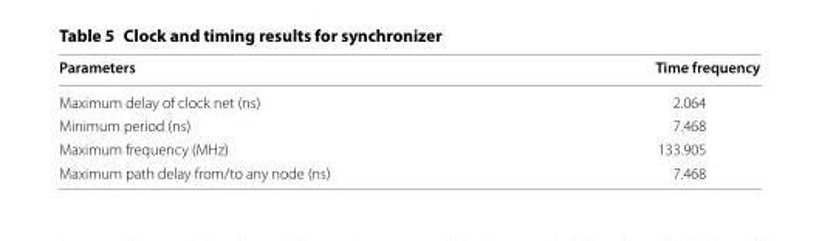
<table><thead><tr><td>Parameters</td><td>Time frequency</td></tr></thead><tbody><tr><td>Maximum delay of clock net (ns)</td><td>2.064</td></tr><tr><td>Minimum period (ns)</td><td>7.468</td></tr><tr><td>Maximum frequency (MHz)</td><td>133.905</td></tr><tr><td>Maximum path delay from/to any node (ns)</td><td>7.468</td></tr></tbody></table>